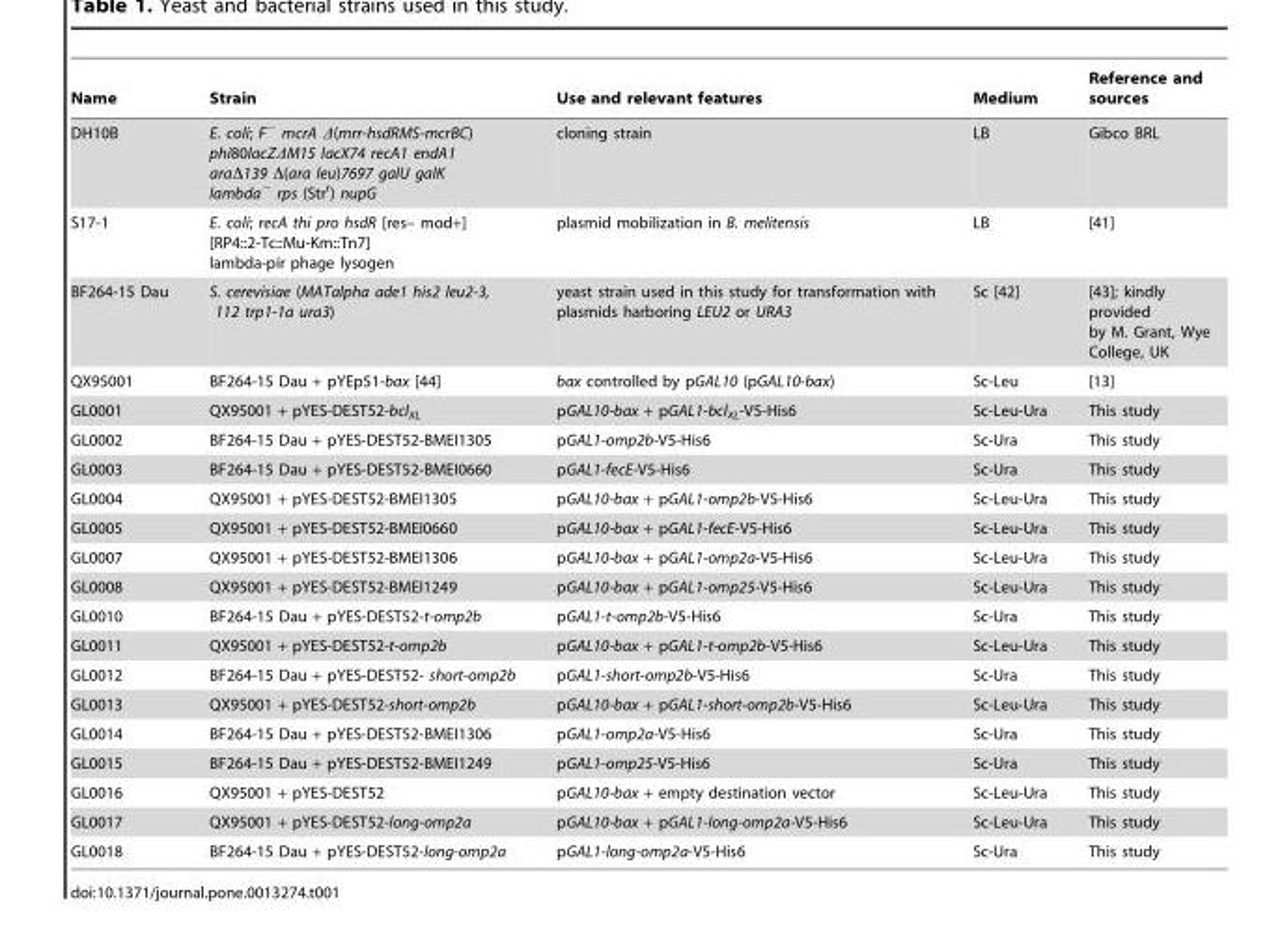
<table><thead><tr><td>Name</td><td>Strain</td><td>Use and relevant features</td><td>Medium</td><td>Reference and sources</td></tr></thead><tbody><tr><td>DH10B</td><td>E. coli; F<sup>−</sup> mcrA Δ(mrr-hsdRMS-mcrBC) phi80lacZΔM15 lacX74 recA1 endA1 araΔ139 Δ(ara leu)7697 galU galK lambda<sup>−</sup> rps (Str<sup>r</sup>) nupG</td><td>cloning strain</td><td>LB</td><td>Gibco BRL</td></tr><tr><td>S17-1</td><td>E. coli; recA thi pro hsdR [res– mod+] [RP4::2-Tc::Mu-Km::Tn7] lambda-pir phage lysogen</td><td>plasmid mobilization in B. melitensis</td><td>LB</td><td>[41]</td></tr><tr><td>BF264-15 Dau</td><td>S. cerevisiae (MATalpha ade1 his2 leu2-3, 112 trp1-1a ura3)</td><td>yeast strain used in this study for transformation with plasmids harboring LEU2 or URA3</td><td>Sc [42]</td><td>[43]; kindly provided by M. Grant, Wye College, UK</td></tr><tr><td>QX95001</td><td>BF264-15 Dau + pYEp51-bax [44]</td><td>bax controlled by pGAL10 (pGAL10-bax)</td><td>Sc-Leu</td><td>[13]</td></tr><tr><td>GL0001</td><td>QX95001 + pYES-DEST52-bcl<sub>XL</sub></td><td>pGAL10-bax + pGAL1-bcl<sub>XL</sub>-V5-His6</td><td>Sc-Leu-Ura</td><td>This study</td></tr><tr><td>GL0002</td><td>BF264-15 Dau + pYES-DEST52-BMEI1305</td><td>pGAL1-omp2b-V5-His6</td><td>Sc-Ura</td><td>This study</td></tr><tr><td>GL0003</td><td>BF264-15 Dau + pYES-DEST52-BMEI0660</td><td>pGAL1-fecE-V5-His6</td><td>Sc-Ura</td><td>This study</td></tr><tr><td>GL0004</td><td>QX95001 + pYES-DEST52-BMEI1305</td><td>pGAL10-bax + pGAL1-omp2b-V5-His6</td><td>Sc-Leu-Ura</td><td>This study</td></tr><tr><td>GL0005</td><td>QX95001 + pYES-DEST52-BMEI0660</td><td>pGAL10-bax + pGAL1-fecE-V5-His6</td><td>Sc-Leu-Ura</td><td>This study</td></tr><tr><td>GL0007</td><td>QX95001 + pYES-DEST52-BMEI1306</td><td>pGAL10-bax + pGAL1-omp2a-V5-His6</td><td>Sc-Leu-Ura</td><td>This study</td></tr><tr><td>GL0008</td><td>QX95001 + pYES-DEST52-BMEI1249</td><td>pGAL10-bax + pGAL1-omp25-V5-His6</td><td>Sc-Leu-Ura</td><td>This study</td></tr><tr><td>GL0010</td><td>BF264-15 Dau + pYES-DEST52-t-omp2b</td><td>pGAL1-t-omp2b-V5-His6</td><td>Sc-Ura</td><td>This study</td></tr><tr><td>GL0011</td><td>QX95001 + pYES-DEST52-t-omp2b</td><td>pGAL10-bax + pGAL1-t-omp2b-V5-His6</td><td>Sc-Leu-Ura</td><td>This study</td></tr><tr><td>GL0012</td><td>BF264-15 Dau + pYES-DEST52- short-omp2b</td><td>pGAL1-short-omp2b-V5-His6</td><td>Sc-Ura</td><td>This study</td></tr><tr><td>GL0013</td><td>QX95001 + pYES-DEST52-short-omp2b</td><td>pGAL10-bax + pGAL1-short-omp2b-V5-His6</td><td>Sc-Leu-Ura</td><td>This study</td></tr><tr><td>GL0014</td><td>BF264-15 Dau + pYES-DEST52-BMEI1306</td><td>pGAL1-omp2a-V5-His6</td><td>Sc-Ura</td><td>This study</td></tr><tr><td>GL0015</td><td>BF264-15 Dau + pYES-DEST52-BMEI1249</td><td>pGAL1-omp25-V5-His6</td><td>Sc-Ura</td><td>This study</td></tr><tr><td>GL0016</td><td>QX95001 + pYES-DEST52</td><td>pGAL10-bax + empty destination vector</td><td>Sc-Leu-Ura</td><td>This study</td></tr><tr><td>GL0017</td><td>QX95001 + pYES-DEST52-long-omp2a</td><td>pGAL10-bax + pGAL1-long-omp2a-V5-His6</td><td>Sc-Leu-Ura</td><td>This study</td></tr><tr><td>GL0018</td><td>BF264-15 Dau + pYES-DEST52-long-omp2a</td><td>pGAL1-long-omp2a-V5-His6</td><td>Sc-Ura</td><td>This study</td></tr></tbody></table>